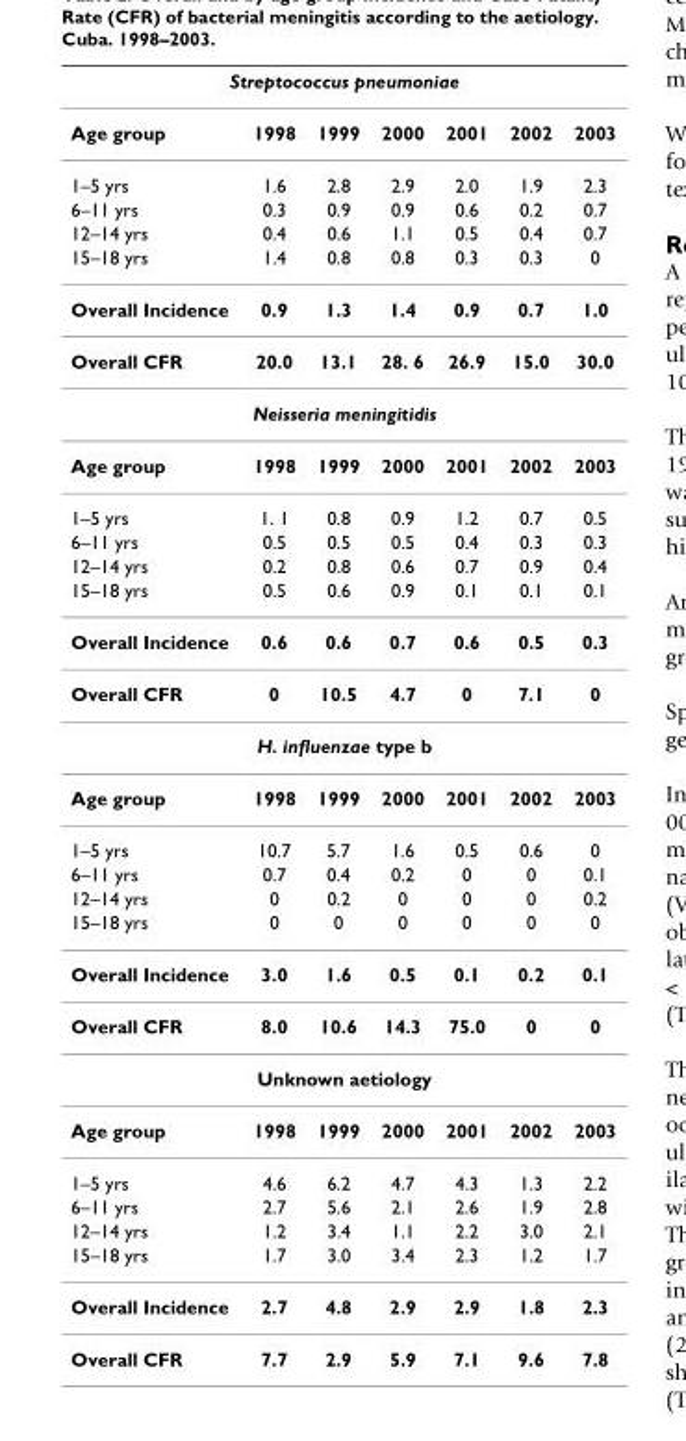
<table><thead><tr><td colspan="7">Streptococcus pneumoniae</td></tr><tr><td>Age group</td><td>1998</td><td>1999</td><td>2000</td><td>2001</td><td>2002</td><td>2003</td></tr></thead><tbody><tr><td>1–5 yrs</td><td>1.6</td><td>2.8</td><td>2.9</td><td>2.0</td><td>1.9</td><td>2.3</td></tr><tr><td>6–11 yrs</td><td>0.3</td><td>0.9</td><td>0.9</td><td>0.6</td><td>0.2</td><td>0.7</td></tr><tr><td>12–14 yrs</td><td>0.4</td><td>0.6</td><td>1.1</td><td>0.5</td><td>0.4</td><td>0.7</td></tr><tr><td>15–18 yrs</td><td>1.4</td><td>0.8</td><td>0.8</td><td>0.3</td><td>0.3</td><td>0</td></tr><tr><td>Overall Incidence</td><td>0.9</td><td>1.3</td><td>1.4</td><td>0.9</td><td>0.7</td><td>1.0</td></tr><tr><td>Overall CFR</td><td>20.0</td><td>13.1</td><td>28. 6</td><td>26.9</td><td>15.0</td><td>30.0</td></tr><tr><td colspan="7">Neisseria meningitidis</td></tr><tr><td>Age group</td><td>1998</td><td>1999</td><td>2000</td><td>2001</td><td>2002</td><td>2003</td></tr><tr><td>1–5 yrs</td><td>1. 1</td><td>0.8</td><td>0.9</td><td>1.2</td><td>0.7</td><td>0.5</td></tr><tr><td>6–11 yrs</td><td>0.5</td><td>0.5</td><td>0.5</td><td>0.4</td><td>0.3</td><td>0.3</td></tr><tr><td>12–14 yrs</td><td>0.2</td><td>0.8</td><td>0.6</td><td>0.7</td><td>0.9</td><td>0.4</td></tr><tr><td>15–18 yrs</td><td>0.5</td><td>0.6</td><td>0.9</td><td>0.1</td><td>0.1</td><td>0.1</td></tr><tr><td>Overall Incidence</td><td>0.6</td><td>0.6</td><td>0.7</td><td>0.6</td><td>0.5</td><td>0.3</td></tr><tr><td>Overall CFR</td><td>0</td><td>10.5</td><td>4.7</td><td>0</td><td>7.1</td><td>0</td></tr><tr><td colspan="7">H. influenzae type b</td></tr><tr><td>Age group</td><td>1998</td><td>1999</td><td>2000</td><td>2001</td><td>2002</td><td>2003</td></tr><tr><td>1–5 yrs</td><td>10.7</td><td>5.7</td><td>1.6</td><td>0.5</td><td>0.6</td><td>0</td></tr><tr><td>6–11 yrs</td><td>0.7</td><td>0.4</td><td>0.2</td><td>0</td><td>0</td><td>0.1</td></tr><tr><td>12–14 yrs</td><td>0</td><td>0.2</td><td>0</td><td>0</td><td>0</td><td>0.2</td></tr><tr><td>15–18 yrs</td><td>0</td><td>0</td><td>0</td><td>0</td><td>0</td><td>0</td></tr><tr><td>Overall Incidence</td><td>3.0</td><td>1.6</td><td>0.5</td><td>0.1</td><td>0.2</td><td>0.1</td></tr><tr><td>Overall CFR</td><td>8.0</td><td>10.6</td><td>14.3</td><td>75.0</td><td>0</td><td>0</td></tr><tr><td colspan="7">Unknown aetiology</td></tr><tr><td>Age group</td><td>1998</td><td>1999</td><td>2000</td><td>2001</td><td>2002</td><td>2003</td></tr><tr><td>1–5 yrs</td><td>4.6</td><td>6.2</td><td>4.7</td><td>4.3</td><td>1.3</td><td>2.2</td></tr><tr><td>6–11 yrs</td><td>2.7</td><td>5.6</td><td>2.1</td><td>2.6</td><td>1.9</td><td>2.8</td></tr><tr><td>12–14 yrs</td><td>1.2</td><td>3.4</td><td>1.1</td><td>2.2</td><td>3.0</td><td>2.1</td></tr><tr><td>15–18 yrs</td><td>1.7</td><td>3.0</td><td>3.4</td><td>2.3</td><td>1.2</td><td>1.7</td></tr><tr><td>Overall Incidence</td><td>2.7</td><td>4.8</td><td>2.9</td><td>2.9</td><td>1.8</td><td>2.3</td></tr><tr><td>Overall CFR</td><td>7.7</td><td>2.9</td><td>5.9</td><td>7.1</td><td>9.6</td><td>7.8</td></tr></tbody></table>